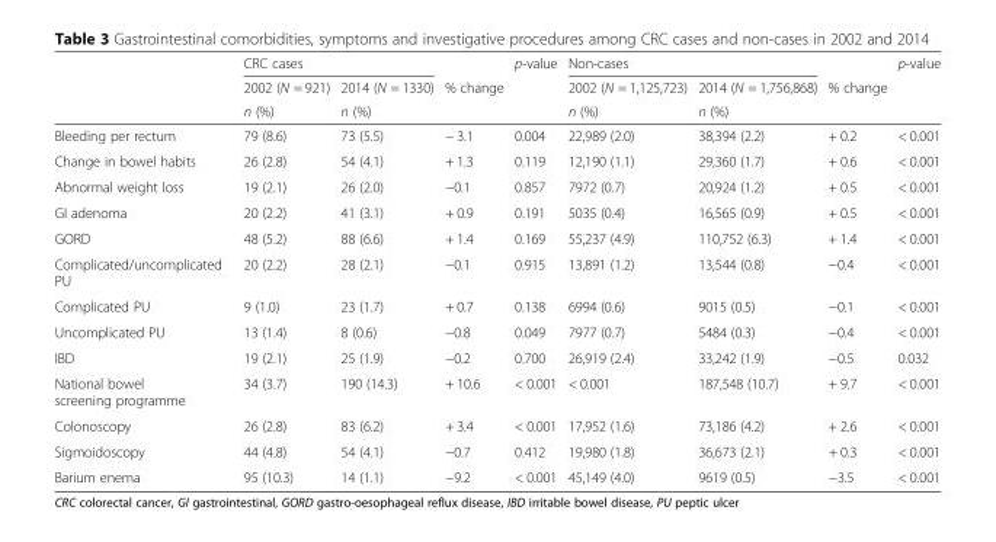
<table><thead><tr><td rowspan="3"></td><td colspan="2">CRC cases</td><td rowspan="3">% change</td><td rowspan="3">p-value</td><td colspan="2">Non-cases</td><td rowspan="3">% change</td><td rowspan="3">p-value</td></tr><tr><td rowspan="2">2002 (N = 921) n (%)</td><td rowspan="2">2014 (N = 1330) n (%)</td><td rowspan="2">2002 (N = 1,125,723) n (%)</td><td rowspan="2">2014 (N = 1,756,868) n (%)</td></tr><tr></tr></thead><tbody><tr><td>Bleeding per rectum</td><td>79 (8.6)</td><td>73 (5.5)</td><td>− 3.1</td><td>0.004</td><td>22,989 (2.0)</td><td>38,394 (2.2)</td><td>+ 0.2</td><td>&lt; 0.001</td></tr><tr><td>Change in bowel habits</td><td>26 (2.8)</td><td>54 (4.1)</td><td>+ 1.3</td><td>0.119</td><td>12,190 (1.1)</td><td>29,360 (1.7)</td><td>+ 0.6</td><td>&lt; 0.001</td></tr><tr><td>Abnormal weight loss</td><td>19 (2.1)</td><td>26 (2.0)</td><td>−0.1</td><td>0.857</td><td>7972 (0.7)</td><td>20,924 (1.2)</td><td>+ 0.5</td><td>&lt; 0.001</td></tr><tr><td>GI adenoma</td><td>20 (2.2)</td><td>41 (3.1)</td><td>+ 0.9</td><td>0.191</td><td>5035 (0.4)</td><td>16,565 (0.9)</td><td>+ 0.5</td><td>&lt; 0.001</td></tr><tr><td>GORD</td><td>48 (5.2)</td><td>88 (6.6)</td><td>+ 1.4</td><td>0.169</td><td>55,237 (4.9)</td><td>110,752 (6.3)</td><td>+ 1.4</td><td>&lt; 0.001</td></tr><tr><td>Complicated/uncomplicated PU</td><td>20 (2.2)</td><td>28 (2.1)</td><td>−0.1</td><td>0.915</td><td>13,891 (1.2)</td><td>13,544 (0.8)</td><td>−0.4</td><td>&lt; 0.001</td></tr><tr><td>Complicated PU</td><td>9 (1.0)</td><td>23 (1.7)</td><td>+ 0.7</td><td>0.138</td><td>6994 (0.6)</td><td>9015 (0.5)</td><td>−0.1</td><td>&lt; 0.001</td></tr><tr><td>Uncomplicated PU</td><td>13 (1.4)</td><td>8 (0.6)</td><td>−0.8</td><td>0.049</td><td>7977 (0.7)</td><td>5484 (0.3)</td><td>−0.4</td><td>&lt; 0.001</td></tr><tr><td>IBD</td><td>19 (2.1)</td><td>25 (1.9)</td><td>−0.2</td><td>0.700</td><td>26,919 (2.4)</td><td>33,242 (1.9)</td><td>−0.5</td><td>0.032</td></tr><tr><td>National bowel screening programme</td><td>34 (3.7)</td><td>190 (14.3)</td><td>+ 10.6</td><td>&lt; 0.001</td><td>&lt; 0.001</td><td>187,548 (10.7)</td><td>+ 9.7</td><td>&lt; 0.001</td></tr><tr><td>Colonoscopy</td><td>26 (2.8)</td><td>83 (6.2)</td><td>+ 3.4</td><td>&lt; 0.001</td><td>17,952 (1.6)</td><td>73,186 (4.2)</td><td>+ 2.6</td><td>&lt; 0.001</td></tr><tr><td>Sigmoidoscopy</td><td>44 (4.8)</td><td>54 (4.1)</td><td>−0.7</td><td>0.412</td><td>19,980 (1.8)</td><td>36,673 (2.1)</td><td>+ 0.3</td><td>&lt; 0.001</td></tr><tr><td>Barium enema</td><td>95 (10.3)</td><td>14 (1.1)</td><td>−9.2</td><td>&lt; 0.001</td><td>45,149 (4.0)</td><td>9619 (0.5)</td><td>−3.5</td><td>&lt; 0.001</td></tr></tbody></table>